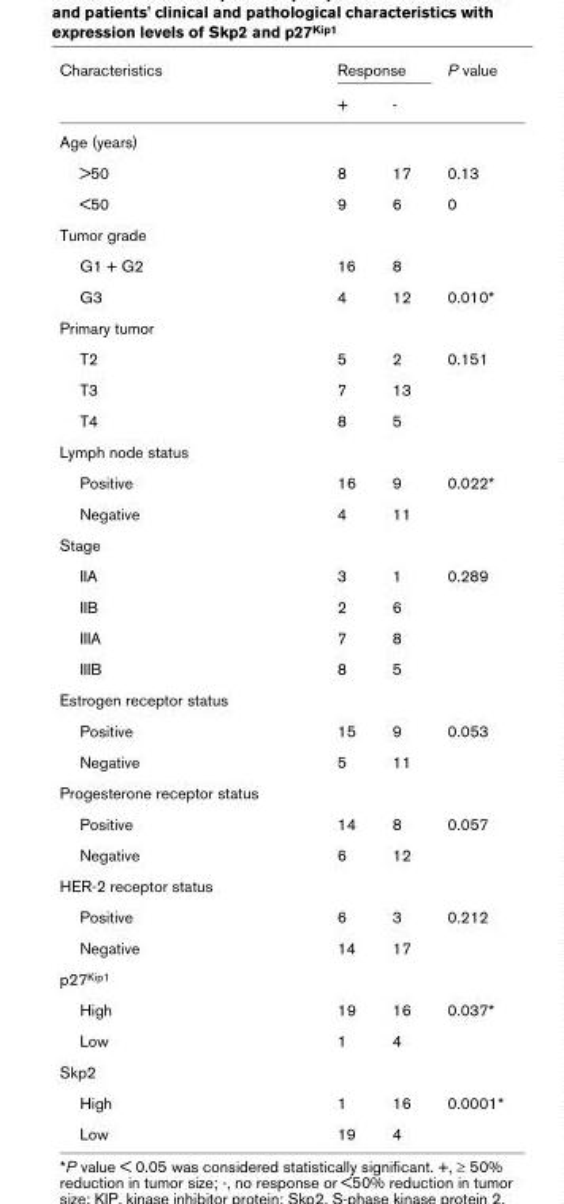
<table><thead><tr><td rowspan="2">Characteristics</td><td colspan="2">Response</td><td rowspan="2">P value</td></tr><tr><td>+</td><td>-</td></tr></thead><tbody><tr><td colspan="4">Age (years)</td></tr><tr><td>&gt;50</td><td>8</td><td>17</td><td>0.13</td></tr><tr><td>&lt;50</td><td>9</td><td>6</td><td>0</td></tr><tr><td colspan="4">Tumor grade</td></tr><tr><td>G1 + G2</td><td>16</td><td>8</td><td></td></tr><tr><td>G3</td><td>4</td><td>12</td><td>0.010*</td></tr><tr><td colspan="4">Primary tumor</td></tr><tr><td>T2</td><td>5</td><td>2</td><td>0.151</td></tr><tr><td>T3</td><td>7</td><td>13</td><td></td></tr><tr><td>T4</td><td>8</td><td>5</td><td></td></tr><tr><td colspan="4">Lymph node status</td></tr><tr><td>Positive</td><td>16</td><td>9</td><td>0.022*</td></tr><tr><td>Negative</td><td>4</td><td>11</td><td></td></tr><tr><td colspan="4">Stage</td></tr><tr><td>IIA</td><td>3</td><td>1</td><td>0.289</td></tr><tr><td>IIB</td><td>2</td><td>6</td><td></td></tr><tr><td>IIIA</td><td>7</td><td>8</td><td></td></tr><tr><td>IIIB</td><td>8</td><td>5</td><td></td></tr><tr><td colspan="4">Estrogen receptor status</td></tr><tr><td>Positive</td><td>15</td><td>9</td><td>0.053</td></tr><tr><td>Negative</td><td>5</td><td>11</td><td></td></tr><tr><td colspan="4">Progesterone receptor status</td></tr><tr><td>Positive</td><td>14</td><td>8</td><td>0.057</td></tr><tr><td>Negative</td><td>6</td><td>12</td><td></td></tr><tr><td colspan="4">HER-2 receptor status</td></tr><tr><td>Positive</td><td>6</td><td>3</td><td>0.212</td></tr><tr><td>Negative</td><td>14</td><td>17</td><td></td></tr><tr><td colspan="4">p27<sup>Kip1</sup></td></tr><tr><td>High</td><td>19</td><td>16</td><td>0.037*</td></tr><tr><td>Low</td><td>1</td><td>4</td><td></td></tr><tr><td colspan="4">Skp2</td></tr><tr><td>High</td><td>1</td><td>16</td><td>0.0001*</td></tr><tr><td>Low</td><td>19</td><td>4</td><td></td></tr></tbody></table>